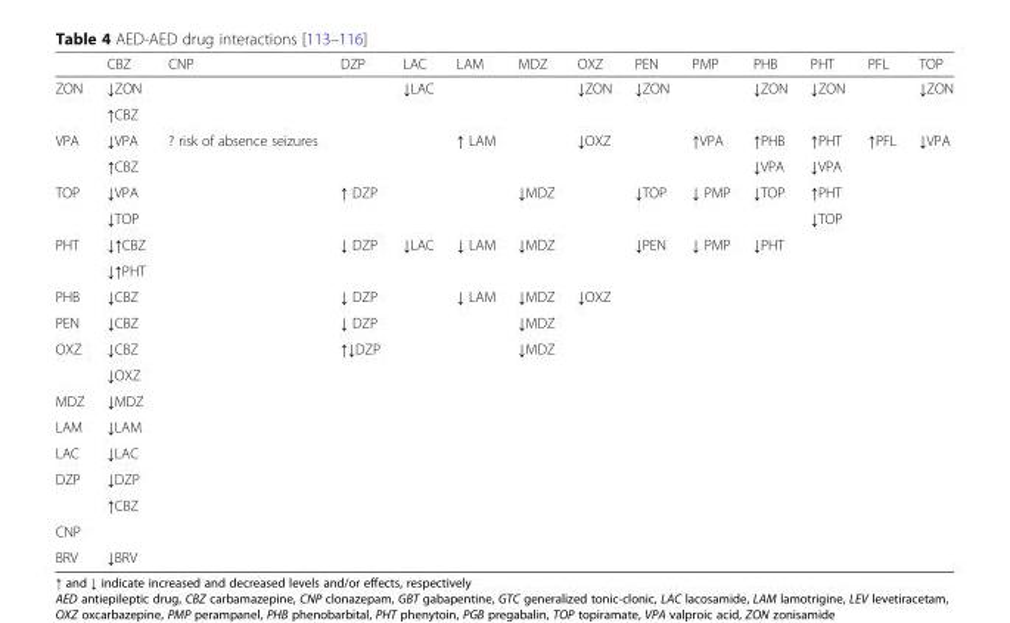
<table><thead><tr><td></td><td>CBZ</td><td>CNP</td><td>DZP</td><td>LAC</td><td>LAM</td><td>MDZ</td><td>OXZ</td><td>PEN</td><td>PMP</td><td>PHB</td><td>PHT</td><td>PFL</td><td>TOP</td></tr></thead><tbody><tr><td rowspan="2">ZON</td><td>↓ZON</td><td rowspan="2"></td><td rowspan="2"></td><td rowspan="2">↓LAC</td><td rowspan="2"></td><td rowspan="2"></td><td rowspan="2">↓ZON</td><td rowspan="2">↓ZON</td><td rowspan="2"></td><td rowspan="2">↓ZON</td><td rowspan="2">↓ZON</td><td rowspan="2"></td><td rowspan="2">↓ZON</td></tr><tr><td>↑CBZ</td></tr><tr><td rowspan="2">VPA</td><td>↓VPA</td><td rowspan="2">? risk of absence seizures</td><td rowspan="2"></td><td rowspan="2"></td><td rowspan="2">↑ LAM</td><td rowspan="2"></td><td rowspan="2">↓OXZ</td><td rowspan="2"></td><td rowspan="2">↑VPA</td><td>↑PHB</td><td>↑PHT</td><td rowspan="2">↑PFL</td><td rowspan="2">↓VPA</td></tr><tr><td>↑CBZ</td><td>↓VPA</td><td>↓VPA</td></tr><tr><td rowspan="2">TOP</td><td>↓VPA</td><td rowspan="2"></td><td rowspan="2">↑ DZP</td><td rowspan="2"></td><td rowspan="2"></td><td rowspan="2">↓MDZ</td><td rowspan="2"></td><td rowspan="2">↓TOP</td><td rowspan="2">↓ PMP</td><td rowspan="2">↓TOP</td><td>↑PHT</td><td rowspan="2"></td><td rowspan="2"></td></tr><tr><td>↓TOP</td><td>↓TOP</td></tr><tr><td rowspan="2">PHT</td><td>↓↑CBZ</td><td rowspan="2"></td><td rowspan="2">↓ DZP</td><td rowspan="2">↓LAC</td><td rowspan="2">↓ LAM</td><td rowspan="2">↓MDZ</td><td rowspan="2"></td><td rowspan="2">↓PEN</td><td rowspan="2">↓ PMP</td><td rowspan="2">↓PHT</td><td rowspan="2"></td><td rowspan="2"></td><td rowspan="2"></td></tr><tr><td>↓↑PHT</td></tr><tr><td>PHB</td><td>↓CBZ</td><td></td><td>↓ DZP</td><td></td><td>↓ LAM</td><td>↓MDZ</td><td>↓OXZ</td><td></td><td></td><td></td><td></td><td></td><td></td></tr><tr><td>PEN</td><td>↓CBZ</td><td></td><td>↓ DZP</td><td></td><td></td><td>↓MDZ</td><td></td><td></td><td></td><td></td><td></td><td></td><td></td></tr><tr><td rowspan="2">OXZ</td><td>↓CBZ</td><td rowspan="2"></td><td rowspan="2">↑↓DZP</td><td rowspan="2"></td><td rowspan="2"></td><td rowspan="2">↓MDZ</td><td rowspan="2"></td><td rowspan="2"></td><td rowspan="2"></td><td rowspan="2"></td><td rowspan="2"></td><td rowspan="2"></td><td rowspan="2"></td></tr><tr><td>↓OXZ</td></tr><tr><td>MDZ</td><td>↓MDZ</td><td></td><td></td><td></td><td></td><td></td><td></td><td></td><td></td><td></td><td></td><td></td><td></td></tr><tr><td>LAM</td><td>↓LAM</td><td></td><td></td><td></td><td></td><td></td><td></td><td></td><td></td><td></td><td></td><td></td><td></td></tr><tr><td>LAC</td><td>↓LAC</td><td></td><td></td><td></td><td></td><td></td><td></td><td></td><td></td><td></td><td></td><td></td><td></td></tr><tr><td rowspan="2">DZP</td><td>↓DZP</td><td rowspan="2"></td><td rowspan="2"></td><td rowspan="2"></td><td rowspan="2"></td><td rowspan="2"></td><td rowspan="2"></td><td rowspan="2"></td><td rowspan="2"></td><td rowspan="2"></td><td rowspan="2"></td><td rowspan="2"></td><td rowspan="2"></td></tr><tr><td>↑CBZ</td></tr><tr><td colspan="14">CNP</td></tr><tr><td>BRV</td><td>↓BRV</td><td></td><td></td><td></td><td></td><td></td><td></td><td></td><td></td><td></td><td></td><td></td><td></td></tr></tbody></table>